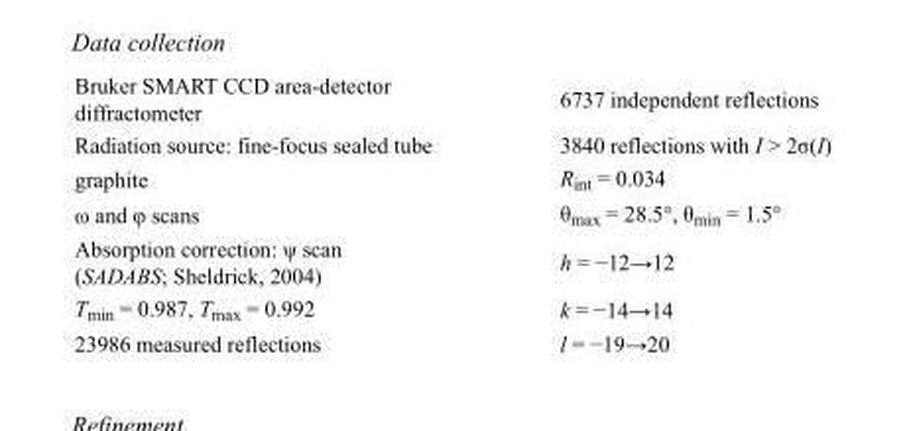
<table><tbody><tr><td>Bruker SMART CCD area-detector diffractometer</td><td>6737 independent reflections</td></tr><tr><td>Radiation source: fine-focus sealed tube</td><td>3840 reflections with I &gt; 2σ(I)</td></tr><tr><td>graphite</td><td>R<sub>int</sub> = 0.034</td></tr><tr><td>ω and φ scans</td><td>θ<sub>max</sub> = 28.5°, θ<sub>min</sub> = 1.5°</td></tr><tr><td>Absorption correction: ψ scan (SADABS; Sheldrick, 2004)</td><td>h = −12→12</td></tr><tr><td>T<sub>min</sub> = 0.987, T<sub>max</sub> = 0.992</td><td>k = −14→14</td></tr><tr><td>23986 measured reflections</td><td>l = −19→20</td></tr></tbody></table>